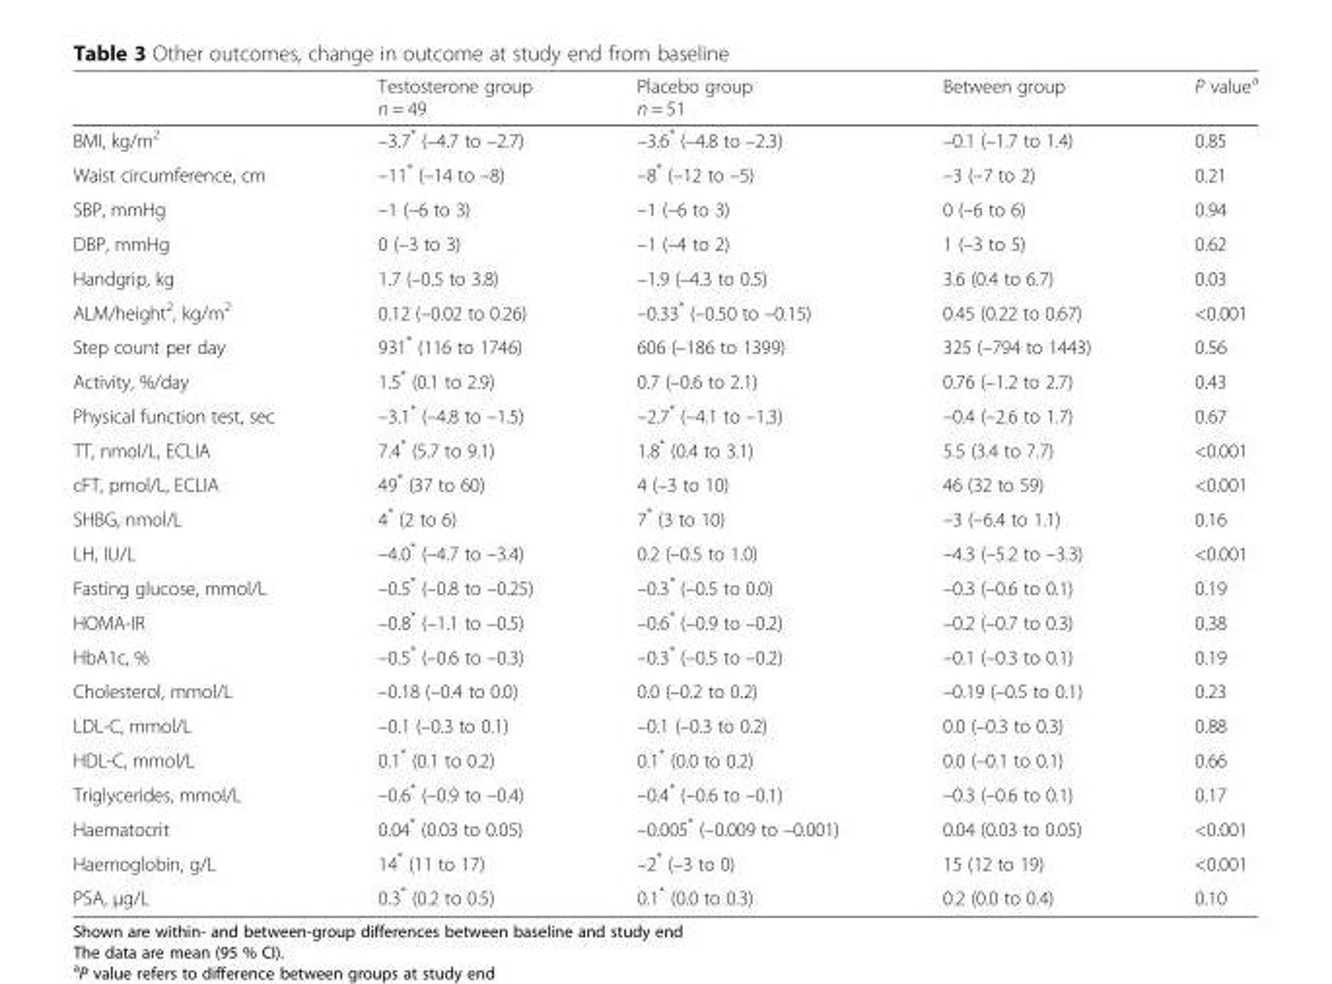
<table><thead><tr><td></td><td>Testosterone group n = 49</td><td>Placebo group n = 51</td><td>Between group</td><td>P value<sup>a</sup></td></tr></thead><tbody><tr><td>BMI, kg/m<sup>2</sup></td><td>–3.7* (–4.7 to –2.7)</td><td>–3.6* (–4.8 to –2.3)</td><td>–0.1 (–1.7 to 1.4)</td><td>0.85</td></tr><tr><td>Waist circumference, cm</td><td>–11* (–14 to –8)</td><td>–8* (–12 to –5)</td><td>–3 (–7 to 2)</td><td>0.21</td></tr><tr><td>SBP, mmHg</td><td>–1 (–6 to 3)</td><td>–1 (–6 to 3)</td><td>0 (–6 to 6)</td><td>0.94</td></tr><tr><td>DBP, mmHg</td><td>0 (–3 to 3)</td><td>–1 (–4 to 2)</td><td>1 (–3 to 5)</td><td>0.62</td></tr><tr><td>Handgrip, kg</td><td>1.7 (–0.5 to 3.8)</td><td>–1.9 (–4.3 to 0.5)</td><td>3.6 (0.4 to 6.7)</td><td>0.03</td></tr><tr><td>ALM/height<sup>2</sup>, kg/m<sup>2</sup></td><td>0.12 (–0.02 to 0.26)</td><td>–0.33* (–0.50 to –0.15)</td><td>0.45 (0.22 to 0.67)</td><td>&lt;0.001</td></tr><tr><td>Step count per day</td><td>931* (116 to 1746)</td><td>606 (–186 to 1399)</td><td>325 (–794 to 1443)</td><td>0.56</td></tr><tr><td>Activity, %/day</td><td>1.5* (0.1 to 2.9)</td><td>0.7 (–0.6 to 2.1)</td><td>0.76 (–1.2 to 2.7)</td><td>0.43</td></tr><tr><td>Physical function test, sec</td><td>–3.1* (–4.8 to –1.5)</td><td>–2.7* (–4.1 to –1.3)</td><td>–0.4 (–2.6 to 1.7)</td><td>0.67</td></tr><tr><td>TT, nmol/L, ECLIA</td><td>7.4* (5.7 to 9.1)</td><td>1.8* (0.4 to 3.1)</td><td>5.5 (3.4 to 7.7)</td><td>&lt;0.001</td></tr><tr><td>cFT, pmol/L, ECLIA</td><td>49* (37 to 60)</td><td>4 (–3 to 10)</td><td>46 (32 to 59)</td><td>&lt;0.001</td></tr><tr><td>SHBG, nmol/L</td><td>4* (2 to 6)</td><td>7* (3 to 10)</td><td>–3 (–6.4 to 1.1)</td><td>0.16</td></tr><tr><td>LH, IU/L</td><td>–4.0* (–4.7 to –3.4)</td><td>0.2 (–0.5 to 1.0)</td><td>–4.3 (–5.2 to –3.3)</td><td>&lt;0.001</td></tr><tr><td>Fasting glucose, mmol/L</td><td>–0.5* (–0.8 to –0.25)</td><td>–0.3* (–0.5 to 0.0)</td><td>–0.3 (–0.6 to 0.1)</td><td>0.19</td></tr><tr><td>HOMA-IR</td><td>–0.8* (–1.1 to –0.5)</td><td>–0.6* (–0.9 to –0.2)</td><td>–0.2 (–0.7 to 0.3)</td><td>0.38</td></tr><tr><td>HbA1c, %</td><td>–0.5* (–0.6 to –0.3)</td><td>–0.3* (–0.5 to –0.2)</td><td>–0.1 (–0.3 to 0.1)</td><td>0.19</td></tr><tr><td>Cholesterol, mmol/L</td><td>–0.18 (–0.4 to 0.0)</td><td>0.0 (–0.2 to 0.2)</td><td>–0.19 (–0.5 to 0.1)</td><td>0.23</td></tr><tr><td>LDL-C, mmol/L</td><td>–0.1 (–0.3 to 0.1)</td><td>–0.1 (–0.3 to 0.2)</td><td>0.0 (–0.3 to 0.3)</td><td>0.88</td></tr><tr><td>HDL-C, mmol/L</td><td>0.1* (0.1 to 0.2)</td><td>0.1* (0.0 to 0.2)</td><td>0.0 (–0.1 to 0.1)</td><td>0.66</td></tr><tr><td>Triglycerides, mmol/L</td><td>–0.6* (–0.9 to –0.4)</td><td>–0.4* (–0.6 to –0.1)</td><td>–0.3 (–0.6 to 0.1)</td><td>0.17</td></tr><tr><td>Haematocrit</td><td>0.04* (0.03 to 0.05)</td><td>–0.005* (–0.009 to –0.001)</td><td>0.04 (0.03 to 0.05)</td><td>&lt;0.001</td></tr><tr><td>Haemoglobin, g/L</td><td>14* (11 to 17)</td><td>–2* (–3 to 0)</td><td>15 (12 to 19)</td><td>&lt;0.001</td></tr><tr><td>PSA, μg/L</td><td>0.3* (0.2 to 0.5)</td><td>0.1* (0.0 to 0.3)</td><td>0.2 (0.0 to 0.4)</td><td>0.10</td></tr></tbody></table>